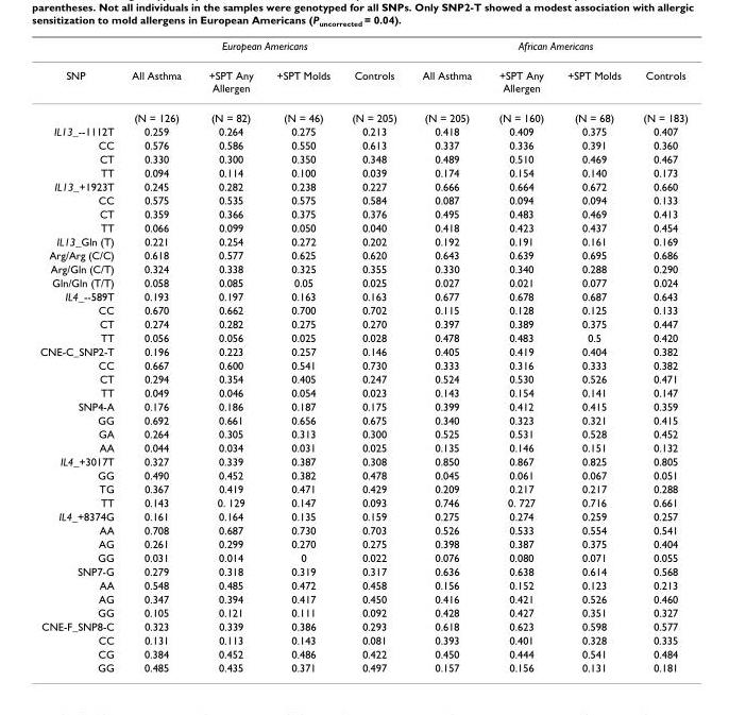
<table><thead><tr><td rowspan="2">SNP</td><td colspan="4">European Americans</td><td colspan="4">African Americans</td></tr><tr><td>All Asthma</td><td>+SPT Any Allergen</td><td>+SPT Molds</td><td>Controls</td><td>All Asthma</td><td>+SPT Any Allergen</td><td>+SPT Molds</td><td>Controls</td></tr></thead><tbody><tr><td></td><td>(N = 126)</td><td>(N = 82)</td><td>(N = 46)</td><td>(N = 205)</td><td>(N = 205)</td><td>(N = 160)</td><td>(N = 68)</td><td>(N = 183)</td></tr><tr><td>IL13_--1112T</td><td>0.259</td><td>0.264</td><td>0.275</td><td>0.213</td><td>0.418</td><td>0.409</td><td>0.375</td><td>0.407</td></tr><tr><td>CC</td><td>0.576</td><td>0.586</td><td>0.550</td><td>0.613</td><td>0.337</td><td>0.336</td><td>0.391</td><td>0.360</td></tr><tr><td>CT</td><td>0.330</td><td>0.300</td><td>0.350</td><td>0.348</td><td>0.489</td><td>0.510</td><td>0.469</td><td>0.467</td></tr><tr><td>TT</td><td>0.094</td><td>0.114</td><td>0.100</td><td>0.039</td><td>0.174</td><td>0.154</td><td>0.140</td><td>0.173</td></tr><tr><td>IL13_+1923T</td><td>0.245</td><td>0.282</td><td>0.238</td><td>0.227</td><td>0.666</td><td>0.664</td><td>0.672</td><td>0.660</td></tr><tr><td>CC</td><td>0.575</td><td>0.535</td><td>0.575</td><td>0.584</td><td>0.087</td><td>0.094</td><td>0.094</td><td>0.133</td></tr><tr><td>CT</td><td>0.359</td><td>0.366</td><td>0.375</td><td>0.376</td><td>0.495</td><td>0.483</td><td>0.469</td><td>0.413</td></tr><tr><td>TT</td><td>0.066</td><td>0.099</td><td>0.050</td><td>0.040</td><td>0.418</td><td>0.423</td><td>0.437</td><td>0.454</td></tr><tr><td>IL13_Gln (T)</td><td>0.221</td><td>0.254</td><td>0.272</td><td>0.202</td><td>0.192</td><td>0.191</td><td>0.161</td><td>0.169</td></tr><tr><td>Arg/Arg (C/C)</td><td>0.618</td><td>0.577</td><td>0.625</td><td>0.620</td><td>0.643</td><td>0.639</td><td>0.695</td><td>0.686</td></tr><tr><td>Arg/Gln (C/T)</td><td>0.324</td><td>0.338</td><td>0.325</td><td>0.355</td><td>0.330</td><td>0.340</td><td>0.288</td><td>0.290</td></tr><tr><td>Gln/Gln (T/T)</td><td>0.058</td><td>0.085</td><td>0.05</td><td>0.025</td><td>0.027</td><td>0.021</td><td>0.077</td><td>0.024</td></tr><tr><td>IL4_--589T</td><td>0.193</td><td>0.197</td><td>0.163</td><td>0.163</td><td>0.677</td><td>0.678</td><td>0.687</td><td>0.643</td></tr><tr><td>CC</td><td>0.670</td><td>0.662</td><td>0.700</td><td>0.702</td><td>0.115</td><td>0.128</td><td>0.125</td><td>0.133</td></tr><tr><td>CT</td><td>0.274</td><td>0.282</td><td>0.275</td><td>0.270</td><td>0.397</td><td>0.389</td><td>0.375</td><td>0.447</td></tr><tr><td>TT</td><td>0.056</td><td>0.056</td><td>0.025</td><td>0.028</td><td>0.478</td><td>0.483</td><td>0.5</td><td>0.420</td></tr><tr><td>CNE-C_SNP2-T</td><td>0.196</td><td>0.223</td><td>0.257</td><td>0.146</td><td>0.405</td><td>0.419</td><td>0.404</td><td>0.382</td></tr><tr><td>CC</td><td>0.667</td><td>0.600</td><td>0.541</td><td>0.730</td><td>0.333</td><td>0.316</td><td>0.333</td><td>0.382</td></tr><tr><td>CT</td><td>0.294</td><td>0.354</td><td>0.405</td><td>0.247</td><td>0.524</td><td>0.530</td><td>0.526</td><td>0.471</td></tr><tr><td>TT</td><td>0.049</td><td>0.046</td><td>0.054</td><td>0.023</td><td>0.143</td><td>0.154</td><td>0.141</td><td>0.147</td></tr><tr><td>SNP4-A</td><td>0.176</td><td>0.186</td><td>0.187</td><td>0.175</td><td>0.399</td><td>0.412</td><td>0.415</td><td>0.359</td></tr><tr><td>GG</td><td>0.692</td><td>0.661</td><td>0.656</td><td>0.675</td><td>0.340</td><td>0.323</td><td>0.321</td><td>0.415</td></tr><tr><td>GA</td><td>0.264</td><td>0.305</td><td>0.313</td><td>0.300</td><td>0.525</td><td>0.531</td><td>0.528</td><td>0.452</td></tr><tr><td>AA</td><td>0.044</td><td>0.034</td><td>0.031</td><td>0.025</td><td>0.135</td><td>0.146</td><td>0.151</td><td>0.132</td></tr><tr><td>IL4_+3017T</td><td>0.327</td><td>0.339</td><td>0.387</td><td>0.308</td><td>0.850</td><td>0.867</td><td>0.825</td><td>0.805</td></tr><tr><td>GG</td><td>0.490</td><td>0.452</td><td>0.382</td><td>0.478</td><td>0.045</td><td>0.061</td><td>0.067</td><td>0.051</td></tr><tr><td>TG</td><td>0.367</td><td>0.419</td><td>0.471</td><td>0.429</td><td>0.209</td><td>0.217</td><td>0.217</td><td>0.288</td></tr><tr><td>TT</td><td>0.143</td><td>0. 129</td><td>0.147</td><td>0.093</td><td>0.746</td><td>0. 727</td><td>0.716</td><td>0.661</td></tr><tr><td>IL4_+8374G</td><td>0.161</td><td>0.164</td><td>0.135</td><td>0.159</td><td>0.275</td><td>0.274</td><td>0.259</td><td>0.257</td></tr><tr><td>AA</td><td>0.708</td><td>0.687</td><td>0.730</td><td>0.703</td><td>0.526</td><td>0.533</td><td>0.554</td><td>0.541</td></tr><tr><td>AG</td><td>0.261</td><td>0.299</td><td>0.270</td><td>0.275</td><td>0.398</td><td>0.387</td><td>0.375</td><td>0.404</td></tr><tr><td>GG</td><td>0.031</td><td>0.014</td><td>0</td><td>0.022</td><td>0.076</td><td>0.080</td><td>0.071</td><td>0.055</td></tr><tr><td>SNP7-G</td><td>0.279</td><td>0.318</td><td>0.319</td><td>0.317</td><td>0.636</td><td>0.638</td><td>0.614</td><td>0.568</td></tr><tr><td>AA</td><td>0.548</td><td>0.485</td><td>0.472</td><td>0.458</td><td>0.156</td><td>0.152</td><td>0.123</td><td>0.213</td></tr><tr><td>AG</td><td>0.347</td><td>0.394</td><td>0.417</td><td>0.450</td><td>0.416</td><td>0.421</td><td>0.526</td><td>0.460</td></tr><tr><td>GG</td><td>0.105</td><td>0.121</td><td>0.111</td><td>0.092</td><td>0.428</td><td>0.427</td><td>0.351</td><td>0.327</td></tr><tr><td>CNE-F_SNP8-C</td><td>0.323</td><td>0.339</td><td>0.386</td><td>0.293</td><td>0.618</td><td>0.623</td><td>0.598</td><td>0.577</td></tr><tr><td>CC</td><td>0.131</td><td>0.113</td><td>0.143</td><td>0.081</td><td>0.393</td><td>0.401</td><td>0.328</td><td>0.335</td></tr><tr><td>CG</td><td>0.384</td><td>0.452</td><td>0.486</td><td>0.422</td><td>0.450</td><td>0.444</td><td>0.541</td><td>0.484</td></tr><tr><td>GG</td><td>0.485</td><td>0.435</td><td>0.371</td><td>0.497</td><td>0.157</td><td>0.156</td><td>0.131</td><td>0.181</td></tr></tbody></table>